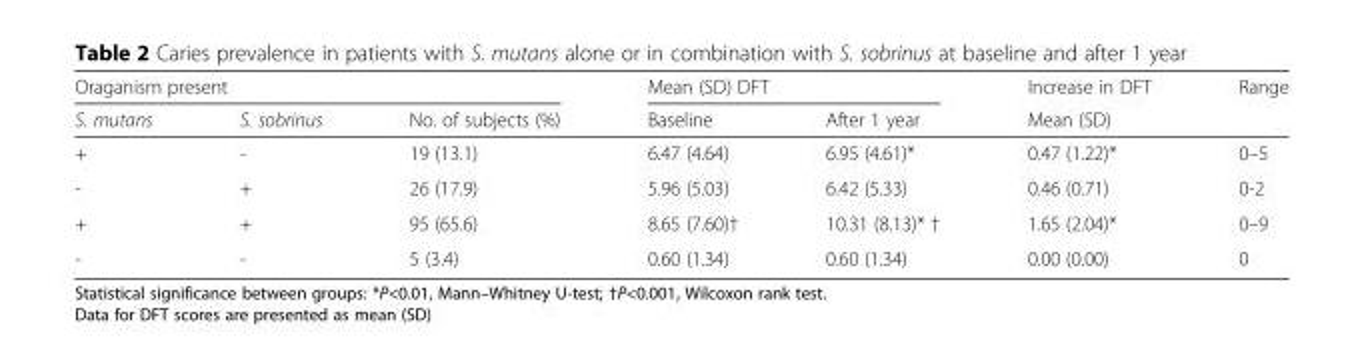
<table><thead><tr><td colspan="3">Oraganism present</td><td colspan="2">Mean (SD) DFT</td><td rowspan="2">Increase in DFT Mean (SD)</td><td rowspan="2">Range</td></tr><tr><td>S. mutans</td><td>S. sobrinus</td><td>No. of subjects (%)</td><td>Baseline</td><td>After 1 year</td></tr></thead><tbody><tr><td>+</td><td>-</td><td>19 (13.1)</td><td>6.47 (4.64)</td><td>6.95 (4.61)*</td><td>0.47 (1.22)*</td><td>0–5</td></tr><tr><td>-</td><td>+</td><td>26 (17.9)</td><td>5.96 (5.03)</td><td>6.42 (5.33)</td><td>0.46 (0.71)</td><td>0-2</td></tr><tr><td>+</td><td>+</td><td>95 (65.6)</td><td>8.65 (7.60)†</td><td>10.31 (8.13)* †</td><td>1.65 (2.04)*</td><td>0–9</td></tr><tr><td>-</td><td>-</td><td>5 (3.4)</td><td>0.60 (1.34)</td><td>0.60 (1.34)</td><td>0.00 (0.00)</td><td>0</td></tr></tbody></table>